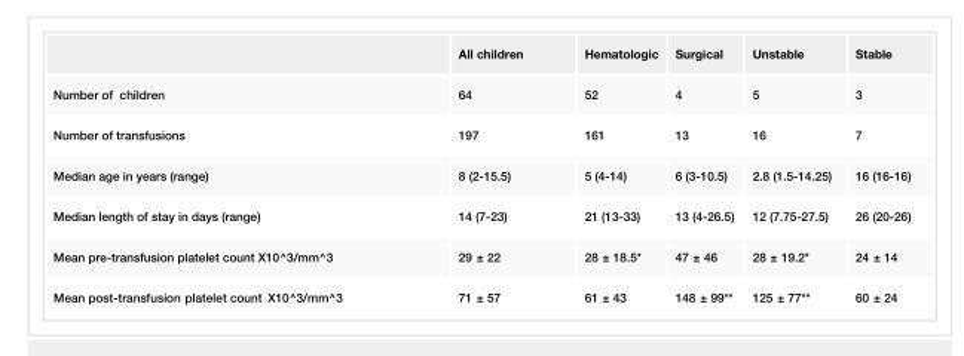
<table><thead><tr><td></td><td>All children</td><td>Hematologic</td><td>Surgical</td><td>Unstable</td><td>Stable</td></tr></thead><tbody><tr><td>Number of children</td><td>64</td><td>52</td><td>4</td><td>5</td><td>3</td></tr><tr><td>Number of transfusions</td><td>197</td><td>161</td><td>13</td><td>16</td><td>7</td></tr><tr><td>Median age in years (range)</td><td>8 (2-15.5)</td><td>5 (4-14)</td><td>6 (3-10.5)</td><td>2.8 (1.5-14.25)</td><td>16 (16-16)</td></tr><tr><td>Median length of stay in days (range)</td><td>14 (7-23)</td><td>21 (13-33)</td><td>13 (4-26.5)</td><td>12 (7.75-27.5)</td><td>26 (20-26)</td></tr><tr><td>Mean pre-transfusion platelet count X10^3/mm^3</td><td>29 ± 22</td><td>28 ± 18.5*</td><td>47 ± 46</td><td>28 ± 19.2*</td><td>24 ± 14</td></tr><tr><td>Mean post-transfusion platelet count X10^3/mm^3</td><td>71 ± 57</td><td>61 ± 43</td><td>148 ± 99**</td><td>125 ± 77**</td><td>60 ± 24</td></tr></tbody></table>